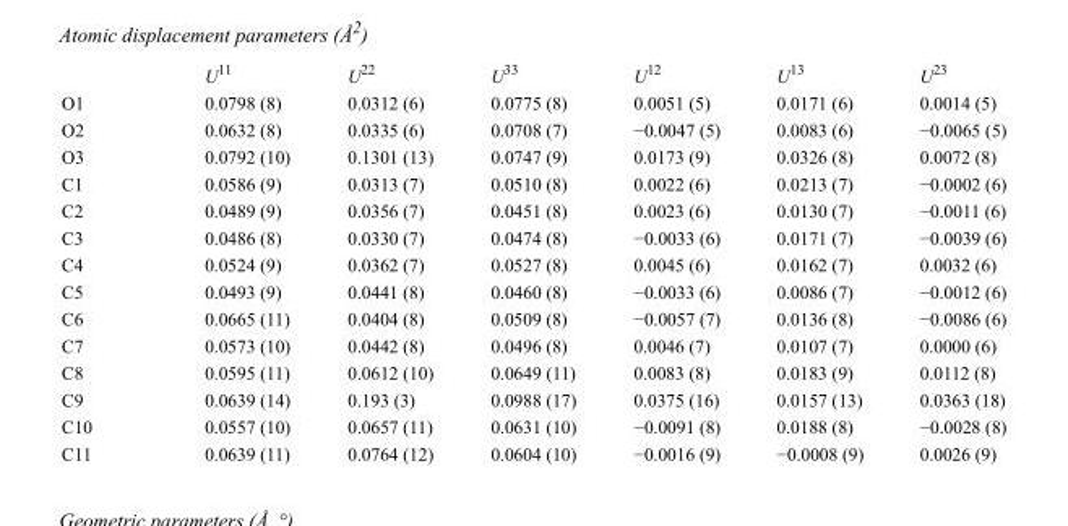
<table><thead><tr><td></td><td>U<sup>11</sup></td><td>U<sup>22</sup></td><td>U<sup>33</sup></td><td>U<sup>12</sup></td><td>U<sup>13</sup></td><td>U<sup>23</sup></td></tr></thead><tbody><tr><td>O1</td><td>0.0798 (8)</td><td>0.0312 (6)</td><td>0.0775 (8)</td><td>0.0051 (5)</td><td>0.0171 (6)</td><td>0.0014 (5)</td></tr><tr><td>O2</td><td>0.0632 (8)</td><td>0.0335 (6)</td><td>0.0708 (7)</td><td>−0.0047 (5)</td><td>0.0083 (6)</td><td>−0.0065 (5)</td></tr><tr><td>O3</td><td>0.0792 (10)</td><td>0.1301 (13)</td><td>0.0747 (9)</td><td>0.0173 (9)</td><td>0.0326 (8)</td><td>0.0072 (8)</td></tr><tr><td>C1</td><td>0.0586 (9)</td><td>0.0313 (7)</td><td>0.0510 (8)</td><td>0.0022 (6)</td><td>0.0213 (7)</td><td>−0.0002 (6)</td></tr><tr><td>C2</td><td>0.0489 (9)</td><td>0.0356 (7)</td><td>0.0451 (8)</td><td>0.0023 (6)</td><td>0.0130 (7)</td><td>−0.0011 (6)</td></tr><tr><td>C3</td><td>0.0486 (8)</td><td>0.0330 (7)</td><td>0.0474 (8)</td><td>−0.0033 (6)</td><td>0.0171 (7)</td><td>−0.0039 (6)</td></tr><tr><td>C4</td><td>0.0524 (9)</td><td>0.0362 (7)</td><td>0.0527 (8)</td><td>0.0045 (6)</td><td>0.0162 (7)</td><td>0.0032 (6)</td></tr><tr><td>C5</td><td>0.0493 (9)</td><td>0.0441 (8)</td><td>0.0460 (8)</td><td>−0.0033 (6)</td><td>0.0086 (7)</td><td>−0.0012 (6)</td></tr><tr><td>C6</td><td>0.0665 (11)</td><td>0.0404 (8)</td><td>0.0509 (8)</td><td>−0.0057 (7)</td><td>0.0136 (8)</td><td>−0.0086 (6)</td></tr><tr><td>C7</td><td>0.0573 (10)</td><td>0.0442 (8)</td><td>0.0496 (8)</td><td>0.0046 (7)</td><td>0.0107 (7)</td><td>0.0000 (6)</td></tr><tr><td>C8</td><td>0.0595 (11)</td><td>0.0612 (10)</td><td>0.0649 (11)</td><td>0.0083 (8)</td><td>0.0183 (9)</td><td>0.0112 (8)</td></tr><tr><td>C9</td><td>0.0639 (14)</td><td>0.193 (3)</td><td>0.0988 (17)</td><td>0.0375 (16)</td><td>0.0157 (13)</td><td>0.0363 (18)</td></tr><tr><td>C10</td><td>0.0557 (10)</td><td>0.0657 (11)</td><td>0.0631 (10)</td><td>−0.0091 (8)</td><td>0.0188 (8)</td><td>−0.0028 (8)</td></tr><tr><td>C11</td><td>0.0639 (11)</td><td>0.0764 (12)</td><td>0.0604 (10)</td><td>−0.0016 (9)</td><td>−0.0008 (9)</td><td>0.0026 (9)</td></tr></tbody></table>